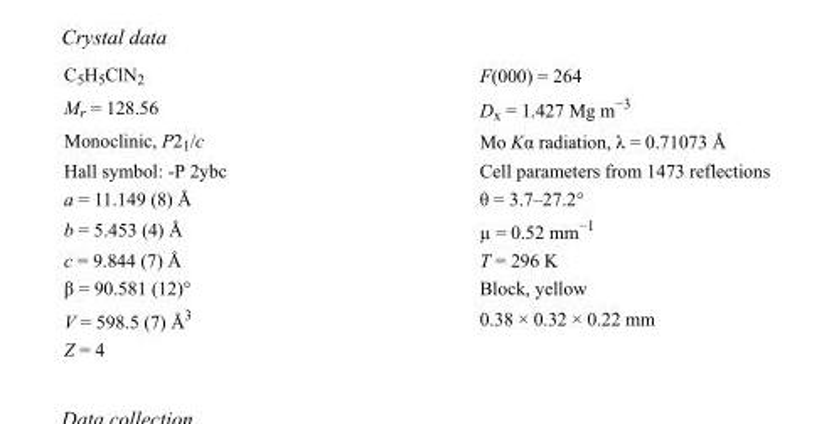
<table><tbody><tr><td>C<sub>5</sub>H<sub>5</sub>ClN<sub>2</sub></td><td>F(000) = 264</td></tr><tr><td>M<sub>r</sub> = 128.56</td><td>D<sub>x</sub> = 1.427 Mg m<sup>−3</sup></td></tr><tr><td>Monoclinic, P2<sub>1</sub>/c</td><td>Mo Kα radiation, λ = 0.71073 Å</td></tr><tr><td>Hall symbol: -P 2ybc</td><td>Cell parameters from 1473 reflections</td></tr><tr><td>a = 11.149 (8) Å</td><td>θ = 3.7–27.2°</td></tr><tr><td>b = 5.453 (4) Å</td><td>µ = 0.52 mm<sup>−1</sup></td></tr><tr><td>c = 9.844 (7) Å</td><td>T = 296 K</td></tr><tr><td>β = 90.581 (12)°</td><td>Block, yellow</td></tr><tr><td>V = 598.5 (7) Å<sup>3</sup></td><td>0.38 × 0.32 × 0.22 mm</td></tr><tr><td>Z = 4</td><td></td></tr></tbody></table>